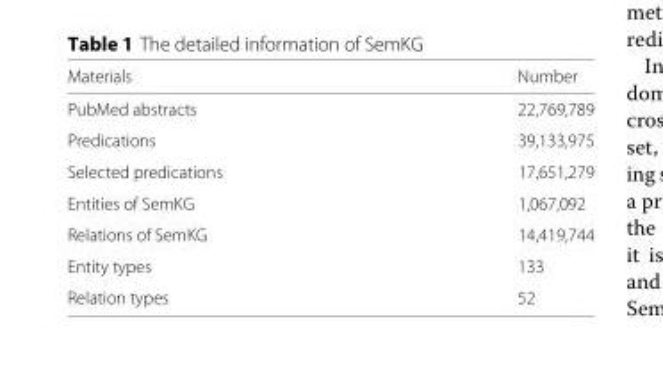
<table><thead><tr><td>Materials</td><td>Number</td></tr></thead><tbody><tr><td>PubMed abstracts</td><td>22,769,789</td></tr><tr><td>Predications</td><td>39,133,975</td></tr><tr><td>Selected predications</td><td>17,651,279</td></tr><tr><td>Entities of SemKG</td><td>1,067,092</td></tr><tr><td>Relations of SemKG</td><td>14,419,744</td></tr><tr><td>Entity types</td><td>133</td></tr><tr><td>Relation types</td><td>52</td></tr></tbody></table>